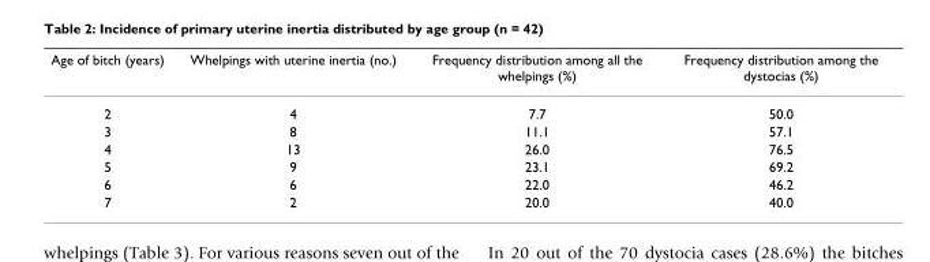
<table><thead><tr><td>Age of bitch (years)</td><td>Whelpings with uterine inertia (no.)</td><td>Frequency distribution among all the whelpings (%)</td><td>Frequency distribution among the dystocias (%)</td></tr></thead><tbody><tr><td>2</td><td>4</td><td>7.7</td><td>50.0</td></tr><tr><td>3</td><td>8</td><td>11.1</td><td>57.1</td></tr><tr><td>4</td><td>13</td><td>26.0</td><td>76.5</td></tr><tr><td>5</td><td>9</td><td>23.1</td><td>69.2</td></tr><tr><td>6</td><td>6</td><td>22.0</td><td>46.2</td></tr><tr><td>7</td><td>2</td><td>20.0</td><td>40.0</td></tr></tbody></table>